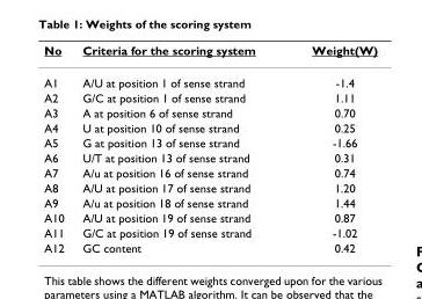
<table><thead><tr><td>No</td><td>Criteria for the scoring system</td><td>Weight(W)</td></tr></thead><tbody><tr><td>A1</td><td>A/U at position 1 of sense strand</td><td>-1.4</td></tr><tr><td>A2</td><td>G/C at position 1 of sense strand</td><td>1.11</td></tr><tr><td>A3</td><td>A at position 6 of sense strand</td><td>0.70</td></tr><tr><td>A4</td><td>U at position 10 of sense strand</td><td>0.25</td></tr><tr><td>A5</td><td>G at position 13 of sense strand</td><td>-1.66</td></tr><tr><td>A6</td><td>U/T at position 13 of sense strand</td><td>0.31</td></tr><tr><td>A7</td><td>A/u at position 16 of sense strand</td><td>0.74</td></tr><tr><td>A8</td><td>A/U at position 17 of sense strand</td><td>1.20</td></tr><tr><td>A9</td><td>A/u at position 18 of sense strand</td><td>1.44</td></tr><tr><td>A10</td><td>A/U at position 19 of sense strand</td><td>0.87</td></tr><tr><td>A11</td><td>G/C at position 19 of sense strand</td><td>-1.02</td></tr><tr><td>A12</td><td>GC content</td><td>0.42</td></tr></tbody></table>